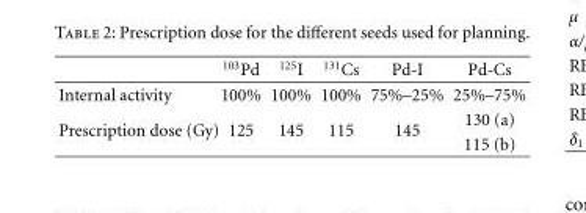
<table><thead><tr><td></td><td><sup>103</sup>Pd</td><td><sup>125</sup>I</td><td><sup>131</sup>Cs</td><td>Pd-I</td><td>Pd-Cs</td></tr></thead><tbody><tr><td>Internal activity</td><td>100%</td><td>100%</td><td>100%</td><td>75%–25%</td><td>25%–75%</td></tr><tr><td rowspan="2">Prescription dose (Gy)</td><td rowspan="2">125</td><td rowspan="2">145</td><td rowspan="2">115</td><td rowspan="2">145</td><td>130 (a)</td></tr><tr><td>115 (b)</td></tr></tbody></table>